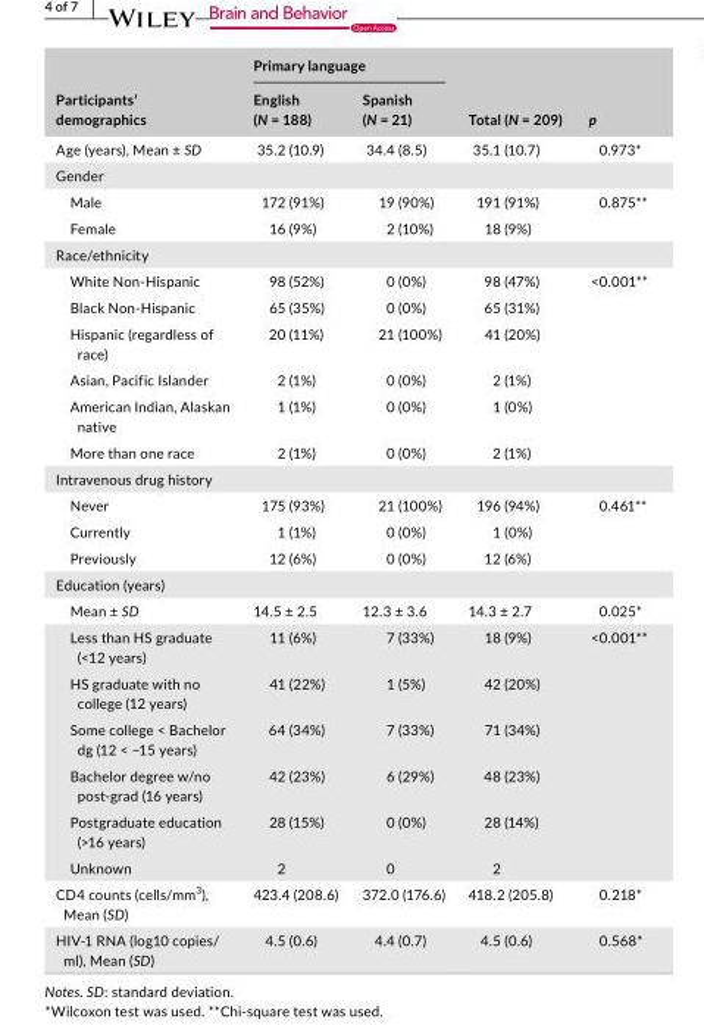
<table><thead><tr><td rowspan="2">Participants’ demographics</td><td colspan="2">Primary language</td><td rowspan="2">Total (N = 209)</td><td rowspan="2">p</td></tr><tr><td>English (N = 188)</td><td>Spanish (N = 21)</td></tr></thead><tbody><tr><td>Age (years), Mean ± SD</td><td>35.2 (10.9)</td><td>34.4 (8.5)</td><td>35.1 (10.7)</td><td>0.973*</td></tr><tr><td colspan="5">Gender</td></tr><tr><td>Male</td><td>172 (91%)</td><td>19 (90%)</td><td>191 (91%)</td><td rowspan="2">0.875**</td></tr><tr><td>Female</td><td>16 (9%)</td><td>2 (10%)</td><td>18 (9%)</td></tr><tr><td colspan="5">Race/ethnicity</td></tr><tr><td>White Non- Hispanic</td><td>98 (52%)</td><td>0 (0%)</td><td>98 (47%)</td><td rowspan="6">&lt;0.001**</td></tr><tr><td>Black Non- Hispanic</td><td>65 (35%)</td><td>0 (0%)</td><td>65 (31%)</td></tr><tr><td>Hispanic (regardless of race)</td><td>20 (11%)</td><td>21 (100%)</td><td>41 (20%)</td></tr><tr><td>Asian, Pacific Islander</td><td>2 (1%)</td><td>0 (0%)</td><td>2 (1%)</td></tr><tr><td>American Indian, Alaskan native</td><td>1 (1%)</td><td>0 (0%)</td><td>1 (0%)</td></tr><tr><td>More than one race</td><td>2 (1%)</td><td>0 (0%)</td><td>2 (1%)</td></tr><tr><td colspan="5">Intravenous drug history</td></tr><tr><td>Never</td><td>175 (93%)</td><td>21 (100%)</td><td>196 (94%)</td><td rowspan="3">0.461**</td></tr><tr><td>Currently</td><td>1 (1%)</td><td>0 (0%)</td><td>1 (0%)</td></tr><tr><td>Previously</td><td>12 (6%)</td><td>0 (0%)</td><td>12 (6%)</td></tr><tr><td colspan="5">Education (years)</td></tr><tr><td>Mean ± SD</td><td>14.5 ± 2.5</td><td>12.3 ± 3.6</td><td>14.3 ± 2.7</td><td>0.025*</td></tr><tr><td>Less than HS graduate (&lt;12 years)</td><td>11 (6%)</td><td>7 (33%)</td><td>18 (9%)</td><td rowspan="6">&lt;0.001**</td></tr><tr><td>HS graduate with no college (12 years)</td><td>41 (22%)</td><td>1 (5%)</td><td>42 (20%)</td></tr><tr><td>Some college &lt; Bachelor dg (12 &lt; −15 years)</td><td>64 (34%)</td><td>7 (33%)</td><td>71 (34%)</td></tr><tr><td>Bachelor degree w/no post- grad (16 years)</td><td>42 (23%)</td><td>6 (29%)</td><td>48 (23%)</td></tr><tr><td>Postgraduate education (&gt;16 years)</td><td>28 (15%)</td><td>0 (0%)</td><td>28 (14%)</td></tr><tr><td>Unknown</td><td>2</td><td>0</td><td>2</td></tr><tr><td>CD4 counts (cells/mm<sup>3</sup>), Mean (SD)</td><td>423.4 (208.6)</td><td>372.0 (176.6)</td><td>418.2 (205.8)</td><td>0.218*</td></tr><tr><td>HIV- 1 RNA (log10 copies/ ml), Mean (SD)</td><td>4.5 (0.6)</td><td>4.4 (0.7)</td><td>4.5 (0.6)</td><td>0.568*</td></tr></tbody></table>